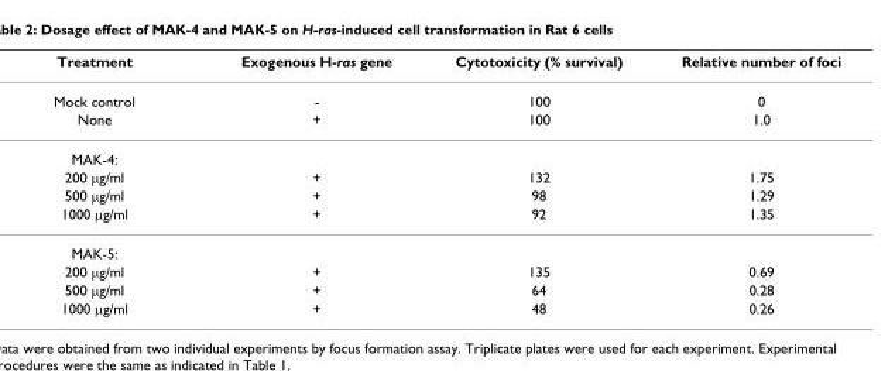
<table><thead><tr><td>Treatment</td><td>Exogenous H-ras gene</td><td>Cytotoxicity (% survival)</td><td>Relative number of foci</td></tr></thead><tbody><tr><td>Mock control</td><td>-</td><td>100</td><td>0</td></tr><tr><td>None</td><td>+</td><td>100</td><td>1.0</td></tr><tr><td colspan="4">MAK-4:</td></tr><tr><td>200 µg/ml</td><td>+</td><td>132</td><td>1.75</td></tr><tr><td>500 µg/ml</td><td>+</td><td>98</td><td>1.29</td></tr><tr><td>1000 µg/ml</td><td>+</td><td>92</td><td>1.35</td></tr><tr><td colspan="4">MAK-5:</td></tr><tr><td>200 µg/ml</td><td>+</td><td>135</td><td>0.69</td></tr><tr><td>500 µg/ml</td><td>+</td><td>64</td><td>0.28</td></tr><tr><td>1000 µg/ml</td><td>+</td><td>48</td><td>0.26</td></tr></tbody></table>